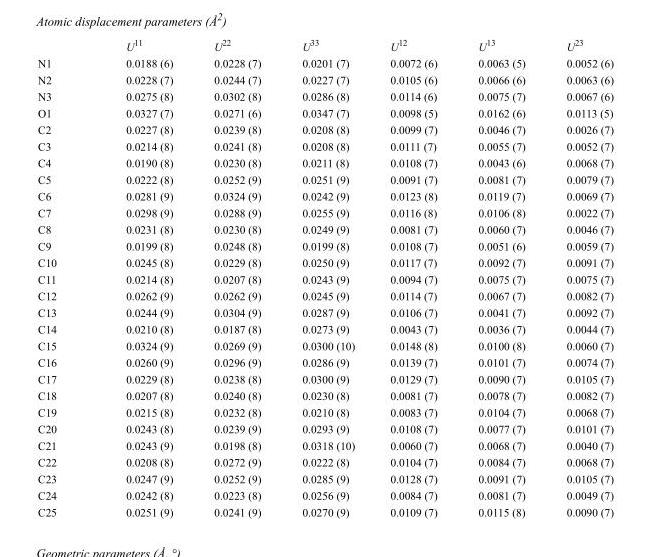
<table><thead><tr><td></td><td>U<sup>11</sup></td><td>U<sup>22</sup></td><td>U<sup>33</sup></td><td>U<sup>12</sup></td><td>U<sup>13</sup></td><td>U<sup>23</sup></td></tr></thead><tbody><tr><td>N1</td><td>0.0188 (6)</td><td>0.0228 (7)</td><td>0.0201 (7)</td><td>0.0072 (6)</td><td>0.0063 (5)</td><td>0.0052 (6)</td></tr><tr><td>N2</td><td>0.0228 (7)</td><td>0.0244 (7)</td><td>0.0227 (7)</td><td>0.0105 (6)</td><td>0.0066 (6)</td><td>0.0063 (6)</td></tr><tr><td>N3</td><td>0.0275 (8)</td><td>0.0302 (8)</td><td>0.0286 (8)</td><td>0.0114 (6)</td><td>0.0075 (7)</td><td>0.0067 (6)</td></tr><tr><td>O1</td><td>0.0327 (7)</td><td>0.0271 (6)</td><td>0.0347 (7)</td><td>0.0098 (5)</td><td>0.0162 (6)</td><td>0.0113 (5)</td></tr><tr><td>C2</td><td>0.0227 (8)</td><td>0.0239 (8)</td><td>0.0208 (8)</td><td>0.0099 (7)</td><td>0.0046 (7)</td><td>0.0026 (7)</td></tr><tr><td>C3</td><td>0.0214 (8)</td><td>0.0241 (8)</td><td>0.0208 (8)</td><td>0.0111 (7)</td><td>0.0055 (7)</td><td>0.0052 (7)</td></tr><tr><td>C4</td><td>0.0190 (8)</td><td>0.0230 (8)</td><td>0.0211 (8)</td><td>0.0108 (7)</td><td>0.0043 (6)</td><td>0.0068 (7)</td></tr><tr><td>C5</td><td>0.0222 (8)</td><td>0.0252 (9)</td><td>0.0251 (9)</td><td>0.0091 (7)</td><td>0.0081 (7)</td><td>0.0079 (7)</td></tr><tr><td>C6</td><td>0.0281 (9)</td><td>0.0324 (9)</td><td>0.0242 (9)</td><td>0.0123 (8)</td><td>0.0119 (7)</td><td>0.0069 (7)</td></tr><tr><td>C7</td><td>0.0298 (9)</td><td>0.0288 (9)</td><td>0.0255 (9)</td><td>0.0116 (8)</td><td>0.0106 (8)</td><td>0.0022 (7)</td></tr><tr><td>C8</td><td>0.0231 (8)</td><td>0.0230 (8)</td><td>0.0249 (9)</td><td>0.0081 (7)</td><td>0.0060 (7)</td><td>0.0046 (7)</td></tr><tr><td>C9</td><td>0.0199 (8)</td><td>0.0248 (8)</td><td>0.0199 (8)</td><td>0.0108 (7)</td><td>0.0051 (6)</td><td>0.0059 (7)</td></tr><tr><td>C10</td><td>0.0245 (8)</td><td>0.0229 (8)</td><td>0.0250 (9)</td><td>0.0117 (7)</td><td>0.0092 (7)</td><td>0.0091 (7)</td></tr><tr><td>C11</td><td>0.0214 (8)</td><td>0.0207 (8)</td><td>0.0243 (9)</td><td>0.0094 (7)</td><td>0.0075 (7)</td><td>0.0075 (7)</td></tr><tr><td>C12</td><td>0.0262 (9)</td><td>0.0262 (9)</td><td>0.0245 (9)</td><td>0.0114 (7)</td><td>0.0067 (7)</td><td>0.0082 (7)</td></tr><tr><td>C13</td><td>0.0244 (9)</td><td>0.0304 (9)</td><td>0.0287 (9)</td><td>0.0106 (7)</td><td>0.0041 (7)</td><td>0.0092 (7)</td></tr><tr><td>C14</td><td>0.0210 (8)</td><td>0.0187 (8)</td><td>0.0273 (9)</td><td>0.0043 (7)</td><td>0.0036 (7)</td><td>0.0044 (7)</td></tr><tr><td>C15</td><td>0.0324 (9)</td><td>0.0269 (9)</td><td>0.0300 (10)</td><td>0.0148 (8)</td><td>0.0100 (8)</td><td>0.0060 (7)</td></tr><tr><td>C16</td><td>0.0260 (9)</td><td>0.0296 (9)</td><td>0.0286 (9)</td><td>0.0139 (7)</td><td>0.0101 (7)</td><td>0.0074 (7)</td></tr><tr><td>C17</td><td>0.0229 (8)</td><td>0.0238 (8)</td><td>0.0300 (9)</td><td>0.0129 (7)</td><td>0.0090 (7)</td><td>0.0105 (7)</td></tr><tr><td>C18</td><td>0.0207 (8)</td><td>0.0240 (8)</td><td>0.0230 (8)</td><td>0.0081 (7)</td><td>0.0078 (7)</td><td>0.0082 (7)</td></tr><tr><td>C19</td><td>0.0215 (8)</td><td>0.0232 (8)</td><td>0.0210 (8)</td><td>0.0083 (7)</td><td>0.0104 (7)</td><td>0.0068 (7)</td></tr><tr><td>C20</td><td>0.0243 (8)</td><td>0.0239 (9)</td><td>0.0293 (9)</td><td>0.0108 (7)</td><td>0.0077 (7)</td><td>0.0101 (7)</td></tr><tr><td>C21</td><td>0.0243 (9)</td><td>0.0198 (8)</td><td>0.0318 (10)</td><td>0.0060 (7)</td><td>0.0068 (7)</td><td>0.0040 (7)</td></tr><tr><td>C22</td><td>0.0208 (8)</td><td>0.0272 (9)</td><td>0.0222 (8)</td><td>0.0104 (7)</td><td>0.0084 (7)</td><td>0.0068 (7)</td></tr><tr><td>C23</td><td>0.0247 (9)</td><td>0.0252 (9)</td><td>0.0285 (9)</td><td>0.0128 (7)</td><td>0.0091 (7)</td><td>0.0105 (7)</td></tr><tr><td>C24</td><td>0.0242 (8)</td><td>0.0223 (8)</td><td>0.0256 (9)</td><td>0.0084 (7)</td><td>0.0081 (7)</td><td>0.0049 (7)</td></tr><tr><td>C25</td><td>0.0251 (9)</td><td>0.0241 (9)</td><td>0.0270 (9)</td><td>0.0109 (7)</td><td>0.0115 (8)</td><td>0.0090 (7)</td></tr></tbody></table>